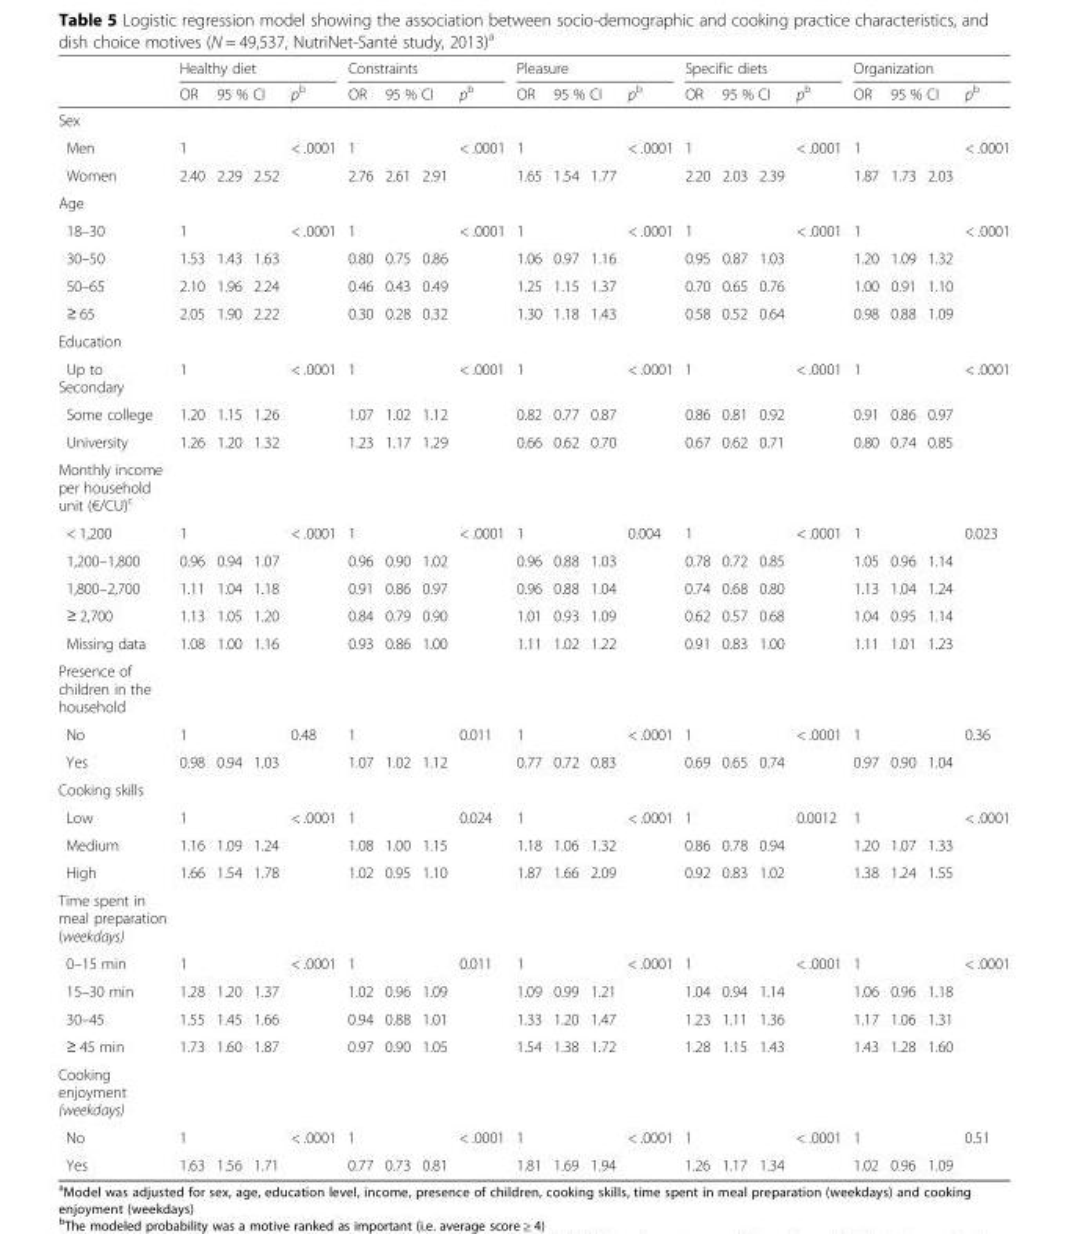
<table><thead><tr><td rowspan="3">Sex</td><td colspan="4">Healthy diet</td><td colspan="4">Constraints</td><td colspan="4">Pleasure</td><td colspan="4">Specific diets</td><td colspan="4">Organization</td></tr><tr><td rowspan="2">OR</td><td colspan="2">95 % CI</td><td rowspan="2">p<sup>b</sup></td><td rowspan="2">OR</td><td colspan="2">95 % CI</td><td rowspan="2">p<sup>b</sup></td><td rowspan="2">OR</td><td colspan="2">95 % CI</td><td rowspan="2">p<sup>b</sup></td><td rowspan="2">OR</td><td colspan="2">95 % CI</td><td rowspan="2">p<sup>b</sup></td><td rowspan="2">OR</td><td colspan="2">95 % CI</td><td rowspan="2">p<sup>b</sup></td></tr><tr><td></td><td></td><td></td><td></td><td></td><td></td><td></td><td></td><td></td><td></td></tr></thead><tbody><tr><td>Men</td><td>1</td><td></td><td></td><td>&lt; .0001</td><td>1</td><td></td><td></td><td>&lt; .0001</td><td>1</td><td></td><td></td><td>&lt; .0001</td><td>1</td><td></td><td></td><td>&lt; .0001</td><td>1</td><td></td><td></td><td>&lt; .0001</td></tr><tr><td>Women</td><td>2.40</td><td>2.29</td><td>2.52</td><td></td><td>2.76</td><td>2.61</td><td>2.91</td><td></td><td>1.65</td><td>1.54</td><td>1.77</td><td></td><td>2.20</td><td>2.03</td><td>2.39</td><td></td><td>1.87</td><td>1.73</td><td>2.03</td><td></td></tr><tr><td colspan="21">Age</td></tr><tr><td>18–30</td><td>1</td><td></td><td></td><td>&lt; .0001</td><td>1</td><td></td><td></td><td>&lt; .0001</td><td>1</td><td></td><td></td><td>&lt; .0001</td><td>1</td><td></td><td></td><td>&lt; .0001</td><td>1</td><td></td><td></td><td>&lt; .0001</td></tr><tr><td>30–50</td><td>1.53</td><td>1.43</td><td>1.63</td><td></td><td>0.80</td><td>0.75</td><td>0.86</td><td></td><td>1.06</td><td>0.97</td><td>1.16</td><td></td><td>0.95</td><td>0.87</td><td>1.03</td><td></td><td>1.20</td><td>1.09</td><td>1.32</td><td></td></tr><tr><td>50–65</td><td>2.10</td><td>1.96</td><td>2.24</td><td></td><td>0.46</td><td>0.43</td><td>0.49</td><td></td><td>1.25</td><td>1.15</td><td>1.37</td><td></td><td>0.70</td><td>0.65</td><td>0.76</td><td></td><td>1.00</td><td>0.91</td><td>1.10</td><td></td></tr><tr><td>≥ 65</td><td>2.05</td><td>1.90</td><td>2.22</td><td></td><td>0.30</td><td>0.28</td><td>0.32</td><td></td><td>1.30</td><td>1.18</td><td>1.43</td><td></td><td>0.58</td><td>0.52</td><td>0.64</td><td></td><td>0.98</td><td>0.88</td><td>1.09</td><td></td></tr><tr><td colspan="21">Education</td></tr><tr><td>Up to Secondary</td><td>1</td><td></td><td></td><td>&lt; .0001</td><td>1</td><td></td><td></td><td>&lt; .0001</td><td>1</td><td></td><td></td><td>&lt; .0001</td><td>1</td><td></td><td></td><td>&lt; .0001</td><td>1</td><td></td><td></td><td>&lt; .0001</td></tr><tr><td>Some college</td><td>1.20</td><td>1.15</td><td>1.26</td><td></td><td>1.07</td><td>1.02</td><td>1.12</td><td></td><td>0.82</td><td>0.77</td><td>0.87</td><td></td><td>0.86</td><td>0.81</td><td>0.92</td><td></td><td>0.91</td><td>0.86</td><td>0.97</td><td></td></tr><tr><td>University</td><td>1.26</td><td>1.20</td><td>1.32</td><td></td><td>1.23</td><td>1.17</td><td>1.29</td><td></td><td>0.66</td><td>0.62</td><td>0.70</td><td></td><td>0.67</td><td>0.62</td><td>0.71</td><td></td><td>0.80</td><td>0.74</td><td>0.85</td><td></td></tr><tr><td colspan="21">Monthly income per household unit (€/CU)<sup>c</sup></td></tr><tr><td>&lt; 1,200</td><td>1</td><td></td><td></td><td>&lt; .0001</td><td>1</td><td></td><td></td><td>&lt; .0001</td><td>1</td><td></td><td></td><td>0.004</td><td>1</td><td></td><td></td><td>&lt; .0001</td><td>1</td><td></td><td></td><td>0.023</td></tr><tr><td>1,200–1,800</td><td>0.96</td><td>0.94</td><td>1.07</td><td></td><td>0.96</td><td>0.90</td><td>1.02</td><td></td><td>0.96</td><td>0.88</td><td>1.03</td><td></td><td>0.78</td><td>0.72</td><td>0.85</td><td></td><td>1.05</td><td>0.96</td><td>1.14</td><td></td></tr><tr><td>1,800–2,700</td><td>1.11</td><td>1.04</td><td>1.18</td><td></td><td>0.91</td><td>0.86</td><td>0.97</td><td></td><td>0.96</td><td>0.88</td><td>1.04</td><td></td><td>0.74</td><td>0.68</td><td>0.80</td><td></td><td>1.13</td><td>1.04</td><td>1.24</td><td></td></tr><tr><td>≥ 2,700</td><td>1.13</td><td>1.05</td><td>1.20</td><td></td><td>0.84</td><td>0.79</td><td>0.90</td><td></td><td>1.01</td><td>0.93</td><td>1.09</td><td></td><td>0.62</td><td>0.57</td><td>0.68</td><td></td><td>1.04</td><td>0.95</td><td>1.14</td><td></td></tr><tr><td>Missing data</td><td>1.08</td><td>1.00</td><td>1.16</td><td></td><td>0.93</td><td>0.86</td><td>1.00</td><td></td><td>1.11</td><td>1.02</td><td>1.22</td><td></td><td>0.91</td><td>0.83</td><td>1.00</td><td></td><td>1.11</td><td>1.01</td><td>1.23</td><td></td></tr><tr><td colspan="21">Presence of children in the household</td></tr><tr><td>No</td><td>1</td><td></td><td></td><td>0.48</td><td>1</td><td></td><td></td><td>0.011</td><td>1</td><td></td><td></td><td>&lt; .0001</td><td>1</td><td></td><td></td><td>&lt; .0001</td><td>1</td><td></td><td></td><td>0.36</td></tr><tr><td>Yes</td><td>0.98</td><td>0.94</td><td>1.03</td><td></td><td>1.07</td><td>1.02</td><td>1.12</td><td></td><td>0.77</td><td>0.72</td><td>0.83</td><td></td><td>0.69</td><td>0.65</td><td>0.74</td><td></td><td>0.97</td><td>0.90</td><td>1.04</td><td></td></tr><tr><td colspan="21">Cooking skills</td></tr><tr><td>Low</td><td>1</td><td></td><td></td><td>&lt; .0001</td><td>1</td><td></td><td></td><td>0.024</td><td>1</td><td></td><td></td><td>&lt; .0001</td><td>1</td><td></td><td></td><td>0.0012</td><td>1</td><td></td><td></td><td>&lt; .0001</td></tr><tr><td>Medium</td><td>1.16</td><td>1.09</td><td>1.24</td><td></td><td>1.08</td><td>1.00</td><td>1.15</td><td></td><td>1.18</td><td>1.06</td><td>1.32</td><td></td><td>0.86</td><td>0.78</td><td>0.94</td><td></td><td>1.20</td><td>1.07</td><td>1.33</td><td></td></tr><tr><td>High</td><td>1.66</td><td>1.54</td><td>1.78</td><td></td><td>1.02</td><td>0.95</td><td>1.10</td><td></td><td>1.87</td><td>1.66</td><td>2.09</td><td></td><td>0.92</td><td>0.83</td><td>1.02</td><td></td><td>1.38</td><td>1.24</td><td>1.55</td><td></td></tr><tr><td colspan="21">Time spent in meal preparation (weekdays)</td></tr><tr><td>0–15 min</td><td>1</td><td></td><td></td><td>&lt; .0001</td><td>1</td><td></td><td></td><td>0.011</td><td>1</td><td></td><td></td><td>&lt; .0001</td><td>1</td><td></td><td></td><td>&lt; .0001</td><td>1</td><td></td><td></td><td>&lt; .0001</td></tr><tr><td>15–30 min</td><td>1.28</td><td>1.20</td><td>1.37</td><td></td><td>1.02</td><td>0.96</td><td>1.09</td><td></td><td>1.09</td><td>0.99</td><td>1.21</td><td></td><td>1.04</td><td>0.94</td><td>1.14</td><td></td><td>1.06</td><td>0.96</td><td>1.18</td><td></td></tr><tr><td>30–45</td><td>1.55</td><td>1.45</td><td>1.66</td><td></td><td>0.94</td><td>0.88</td><td>1.01</td><td></td><td>1.33</td><td>1.20</td><td>1.47</td><td></td><td>1.23</td><td>1.11</td><td>1.36</td><td></td><td>1.17</td><td>1.06</td><td>1.31</td><td></td></tr><tr><td>≥ 45 min</td><td>1.73</td><td>1.60</td><td>1.87</td><td></td><td>0.97</td><td>0.90</td><td>1.05</td><td></td><td>1.54</td><td>1.38</td><td>1.72</td><td></td><td>1.28</td><td>1.15</td><td>1.43</td><td></td><td>1.43</td><td>1.28</td><td>1.60</td><td></td></tr><tr><td colspan="21">Cooking enjoyment (weekdays)</td></tr><tr><td>No</td><td>1</td><td></td><td></td><td>&lt; .0001</td><td>1</td><td></td><td></td><td>&lt; .0001</td><td>1</td><td></td><td></td><td>&lt; .0001</td><td>1</td><td></td><td></td><td>&lt; .0001</td><td>1</td><td></td><td></td><td>0.51</td></tr><tr><td>Yes</td><td>1.63</td><td>1.56</td><td>1.71</td><td></td><td>0.77</td><td>0.73</td><td>0.81</td><td></td><td>1.81</td><td>1.69</td><td>1.94</td><td></td><td>1.26</td><td>1.17</td><td>1.34</td><td></td><td>1.02</td><td>0.96</td><td>1.09</td><td></td></tr></tbody></table>